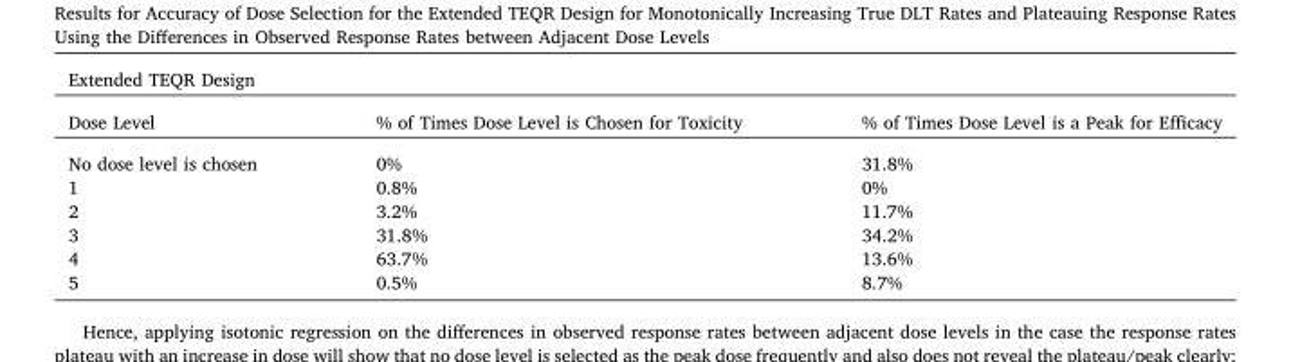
<table><thead><tr><td colspan="3">Extended TEQR Design</td></tr><tr><td>Dose Level</td><td>% of Times Dose Level is Chosen for Toxicity</td><td>% of Times Dose Level is a Peak for Efficacy</td></tr></thead><tbody><tr><td>No dose level is chosen</td><td>0%</td><td>31.8%</td></tr><tr><td>1</td><td>0.8%</td><td>0%</td></tr><tr><td>2</td><td>3.2%</td><td>11.7%</td></tr><tr><td>3</td><td>31.8%</td><td>34.2%</td></tr><tr><td>4</td><td>63.7%</td><td>13.6%</td></tr><tr><td>5</td><td>0.5%</td><td>8.7%</td></tr></tbody></table>